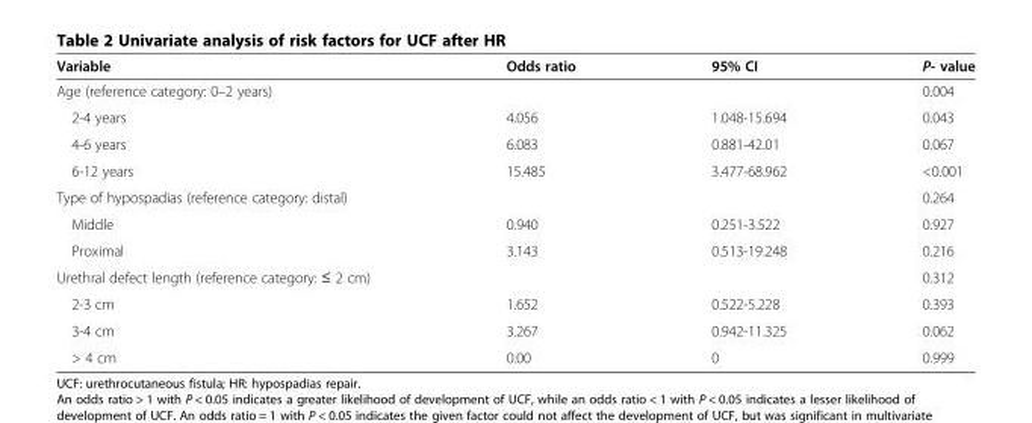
<table><thead><tr><td>Variable</td><td>Odds ratio</td><td>95% CI</td><td>P- value</td></tr></thead><tbody><tr><td>Age (reference category: 0–2 years)</td><td></td><td></td><td>0.004</td></tr><tr><td>2-4 years</td><td>4.056</td><td>1.048-15.694</td><td>0.043</td></tr><tr><td>4-6 years</td><td>6.083</td><td>0.881-42.01</td><td>0.067</td></tr><tr><td>6-12 years</td><td>15.485</td><td>3.477-68.962</td><td>&lt;0.001</td></tr><tr><td>Type of hypospadias (reference category: distal)</td><td></td><td></td><td>0.264</td></tr><tr><td>Middle</td><td>0.940</td><td>0.251-3.522</td><td>0.927</td></tr><tr><td>Proximal</td><td>3.143</td><td>0.513-19.248</td><td>0.216</td></tr><tr><td>Urethral defect length (reference category: ≤ 2 cm)</td><td></td><td></td><td>0.312</td></tr><tr><td>2-3 cm</td><td>1.652</td><td>0.522-5.228</td><td>0.393</td></tr><tr><td>3-4 cm</td><td>3.267</td><td>0.942-11.325</td><td>0.062</td></tr><tr><td>&gt; 4 cm</td><td>0.00</td><td>0</td><td>0.999</td></tr></tbody></table>